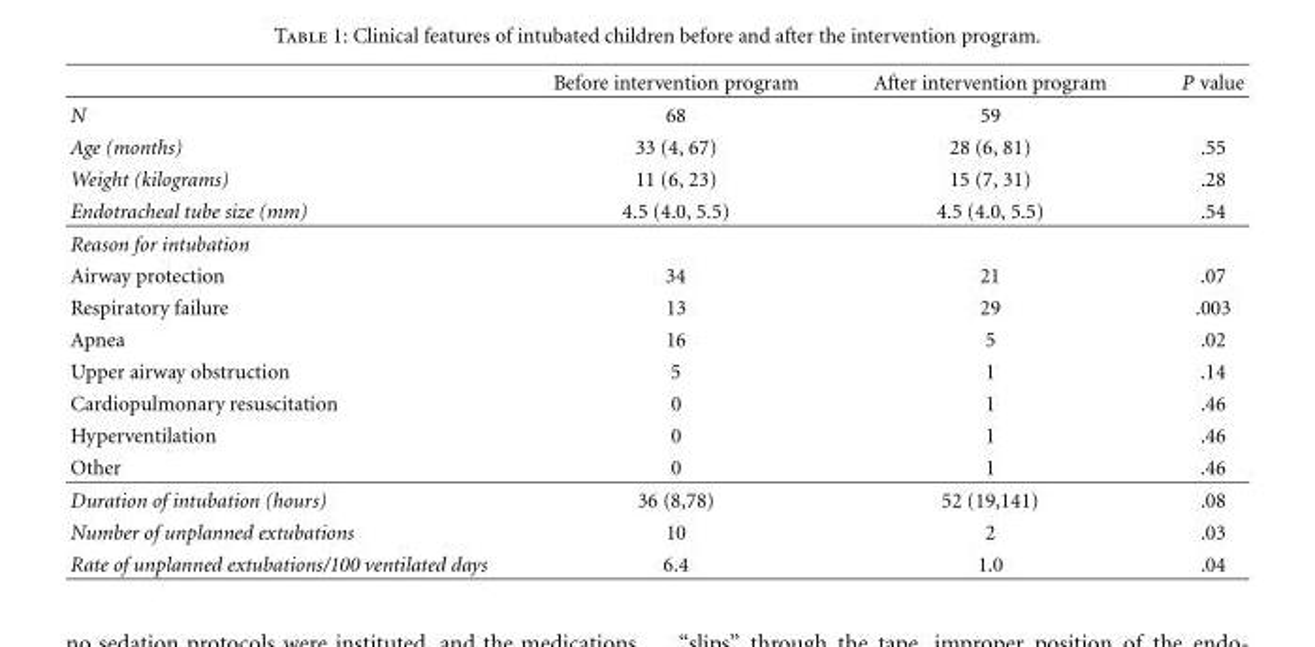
<table><thead><tr><td></td><td>Before intervention program</td><td>After intervention program</td><td>P value</td></tr></thead><tbody><tr><td>N</td><td>68</td><td>59</td><td></td></tr><tr><td>Age (months)</td><td>33 (4, 67)</td><td>28 (6, 81)</td><td>.55</td></tr><tr><td>Weight (kilograms)</td><td>11 (6, 23)</td><td>15 (7, 31)</td><td>.28</td></tr><tr><td>Endotracheal tube size (mm)</td><td>4.5 (4.0, 5.5)</td><td>4.5 (4.0, 5.5)</td><td>.54</td></tr><tr><td colspan="4">Reason for intubation</td></tr><tr><td>Airway protection</td><td>34</td><td>21</td><td>.07</td></tr><tr><td>Respiratory failure</td><td>13</td><td>29</td><td>.003</td></tr><tr><td>Apnea</td><td>16</td><td>5</td><td>.02</td></tr><tr><td>Upper airway obstruction</td><td>5</td><td>1</td><td>.14</td></tr><tr><td>Cardiopulmonary resuscitation</td><td>0</td><td>1</td><td>.46</td></tr><tr><td>Hyperventilation</td><td>0</td><td>1</td><td>.46</td></tr><tr><td>Other</td><td>0</td><td>1</td><td>.46</td></tr><tr><td>Duration of intubation (hours)</td><td>36 (8,78)</td><td>52 (19,141)</td><td>.08</td></tr><tr><td>Number of unplanned extubations</td><td>10</td><td>2</td><td>.03</td></tr><tr><td>Rate of unplanned extubations/100 ventilated days</td><td>6.4</td><td>1.0</td><td>.04</td></tr></tbody></table>